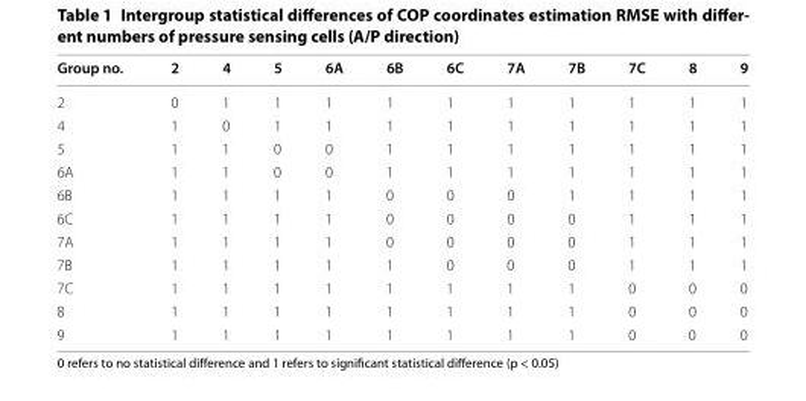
<table><thead><tr><td>Group no.</td><td>2</td><td>4</td><td>5</td><td>6A</td><td>6B</td><td>6C</td><td>7A</td><td>7B</td><td>7C</td><td>8</td><td>9</td></tr></thead><tbody><tr><td>2</td><td>0</td><td>1</td><td>1</td><td>1</td><td>1</td><td>1</td><td>1</td><td>1</td><td>1</td><td>1</td><td>1</td></tr><tr><td>4</td><td>1</td><td>0</td><td>1</td><td>1</td><td>1</td><td>1</td><td>1</td><td>1</td><td>1</td><td>1</td><td>1</td></tr><tr><td>5</td><td>1</td><td>1</td><td>0</td><td>0</td><td>1</td><td>1</td><td>1</td><td>1</td><td>1</td><td>1</td><td>1</td></tr><tr><td>6A</td><td>1</td><td>1</td><td>0</td><td>0</td><td>1</td><td>1</td><td>1</td><td>1</td><td>1</td><td>1</td><td>1</td></tr><tr><td>6B</td><td>1</td><td>1</td><td>1</td><td>1</td><td>0</td><td>0</td><td>0</td><td>1</td><td>1</td><td>1</td><td>1</td></tr><tr><td>6C</td><td>1</td><td>1</td><td>1</td><td>1</td><td>0</td><td>0</td><td>0</td><td>0</td><td>1</td><td>1</td><td>1</td></tr><tr><td>7A</td><td>1</td><td>1</td><td>1</td><td>1</td><td>0</td><td>0</td><td>0</td><td>0</td><td>1</td><td>1</td><td>1</td></tr><tr><td>7B</td><td>1</td><td>1</td><td>1</td><td>1</td><td>1</td><td>0</td><td>0</td><td>0</td><td>1</td><td>1</td><td>1</td></tr><tr><td>7C</td><td>1</td><td>1</td><td>1</td><td>1</td><td>1</td><td>1</td><td>1</td><td>1</td><td>0</td><td>0</td><td>0</td></tr><tr><td>8</td><td>1</td><td>1</td><td>1</td><td>1</td><td>1</td><td>1</td><td>1</td><td>1</td><td>0</td><td>0</td><td>0</td></tr><tr><td>9</td><td>1</td><td>1</td><td>1</td><td>1</td><td>1</td><td>1</td><td>1</td><td>1</td><td>0</td><td>0</td><td>0</td></tr></tbody></table>